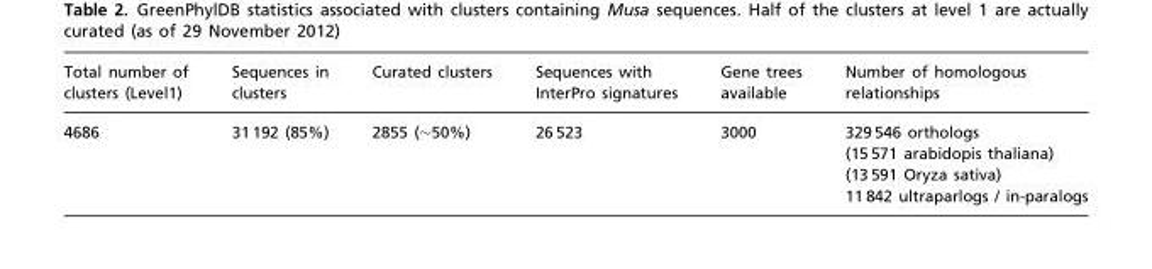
<table><thead><tr><td>Total number of clusters (Level1)</td><td>Sequences in clusters</td><td>Curated clusters</td><td>Sequences with InterPro signatures</td><td>Gene trees available</td><td>Number of homologous relationships</td></tr></thead><tbody><tr><td rowspan="4">4686</td><td rowspan="4">31 192 (85%)</td><td rowspan="4">2855 (∼50%)</td><td rowspan="4">26 523</td><td rowspan="4">3000</td><td>329 546 orthologs</td></tr><tr><td>(15 571 arabidopis thaliana)</td></tr><tr><td>(13 591 Oryza sativa)</td></tr><tr><td>11 842 ultraparlogs / in-paralogs</td></tr></tbody></table>